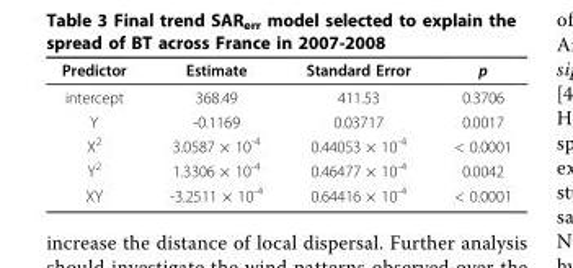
<table><thead><tr><td>Predictor</td><td>Estimate</td><td>Standard Error</td><td>p</td></tr></thead><tbody><tr><td>intercept</td><td>368.49</td><td>411.53</td><td>0.3706</td></tr><tr><td>Y</td><td>-0.1169</td><td>0.03717</td><td>0.0017</td></tr><tr><td>X<sup>2</sup></td><td>3.0587 × 10<sup>-4</sup></td><td>0.44053 × 10<sup>-4</sup></td><td>&lt; 0.0001</td></tr><tr><td>Y<sup>2</sup></td><td>1.3306 × 10<sup>-4</sup></td><td>0.46477 × 10<sup>-4</sup></td><td>0.0042</td></tr><tr><td>XY</td><td>-3.2511 × 10<sup>-4</sup></td><td>0.64416 × 10<sup>-4</sup></td><td>&lt; 0.0001</td></tr></tbody></table>